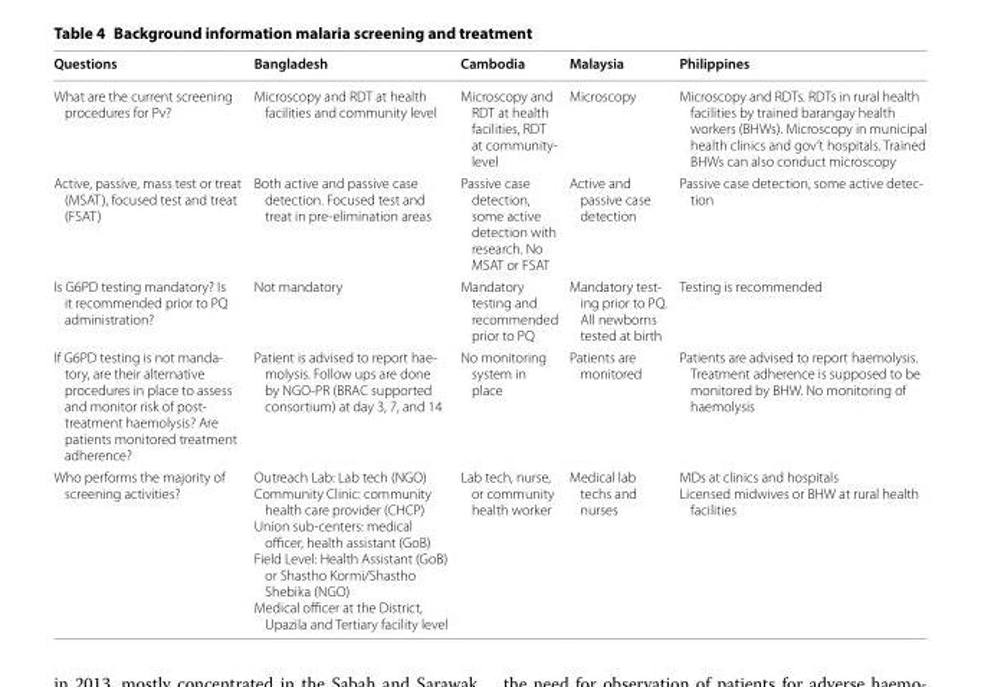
<table><thead><tr><td>Questions</td><td>Bangladesh</td><td>Cambodia</td><td>Malaysia</td><td>Philippines</td></tr></thead><tbody><tr><td>What are the current screening procedures for Pv?</td><td>Microscopy and RDT at health facilities and community level</td><td>Microscopy and RDT at health facilities, RDT at community‑ level</td><td>Microscopy</td><td>Microscopy and RDTs. RDTs in rural health facilities by trained barangay health workers (BHWs). Microscopy in municipal health clinics and gov’t hospitals. Trained BHWs can also conduct microscopy</td></tr><tr><td>Active, passive, mass test or treat (MSAT), focused test and treat (FSAT)</td><td>Both active and passive case detection. Focused test and treat in pre‑elimination areas</td><td>Passive case detection, some active detection with research. No MSAT or FSAT</td><td>Active and passive case detection</td><td>Passive case detection, some active detec‑ tion</td></tr><tr><td>Is G6PD testing mandatory? Is it recommended prior to PQ administration?</td><td>Not mandatory</td><td>Mandatory testing and recommended prior to PQ</td><td>Mandatory test‑ ing prior to PQ. All newborns tested at birth</td><td>Testing is recommended</td></tr><tr><td>If G6PD testing is not manda‑ tory, are their alternative procedures in place to assess and monitor risk of post‑ treatment haemolysis? Are patients monitored treatment adherence?</td><td>Patient is advised to report hae‑ molysis. Follow ups are done by NGO‑PR (BRAC supported consortium) at day 3, 7, and 14</td><td>No monitoring system in place</td><td>Patients are monitored</td><td>Patients are advised to report haemolysis. Treatment adherence is supposed to be monitored by BHW. No monitoring of haemolysis</td></tr><tr><td>Who performs the majority of screening activities?</td><td>Outreach Lab: Lab tech (NGO) Community Clinic: community health care provider (CHCP) Union sub‑centers: medical officer, health assistant (GoB) Field Level: Health Assistant (GoB) or Shastho Kormi/Shastho Shebika (NGO) Medical officer at the District, Upazila and Tertiary facility level</td><td>Lab tech, nurse, or community health worker</td><td>Medical lab techs and nurses</td><td>MDs at clinics and hospitals Licensed midwives or BHW at rural health facilities</td></tr></tbody></table>